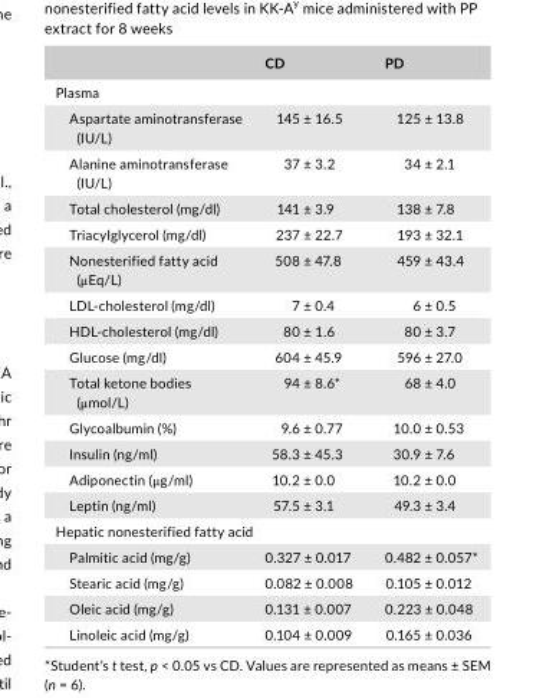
<table><thead><tr><td></td><td>CD</td><td>PD</td></tr></thead><tbody><tr><td colspan="3">Plasma</td></tr><tr><td>Aspartate aminotransferase (IU/L)</td><td>145 ± 16.5</td><td>125 ± 13.8</td></tr><tr><td>Alanine aminotransferase (IU/L)</td><td>37 ± 3.2</td><td>34 ± 2.1</td></tr><tr><td>Total cholesterol (mg/dl)</td><td>141 ± 3.9</td><td>138 ± 7.8</td></tr><tr><td>Triacylglycerol (mg/dl)</td><td>237 ± 22.7</td><td>193 ± 32.1</td></tr><tr><td>Nonesterified fatty acid (μEq/L)</td><td>508 ± 47.8</td><td>459 ± 43.4</td></tr><tr><td>LDL- cholesterol (mg/dl)</td><td>7 ± 0.4</td><td>6 ± 0.5</td></tr><tr><td>HDL- cholesterol (mg/dl)</td><td>80 ± 1.6</td><td>80 ± 3.7</td></tr><tr><td>Glucose (mg/dl)</td><td>604 ± 45.9</td><td>596 ± 27.0</td></tr><tr><td>Total ketone bodies (μmol/L)</td><td>94 ± 8.6*</td><td>68 ± 4.0</td></tr><tr><td>Glycoalbumin (%)</td><td>9.6 ± 0.77</td><td>10.0 ± 0.53</td></tr><tr><td>Insulin (ng/ml)</td><td>58.3 ± 45.3</td><td>30.9 ± 7.6</td></tr><tr><td>Adiponectin (μg/ml)</td><td>10.2 ± 0.0</td><td>10.2 ± 0.0</td></tr><tr><td>Leptin (ng/ml)</td><td>57.5 ± 3.1</td><td>49.3 ± 3.4</td></tr><tr><td colspan="3">Hepatic nonesterified fatty acid</td></tr><tr><td>Palmitic acid (mg/g)</td><td>0.327 ± 0.017</td><td>0.482 ± 0.057*</td></tr><tr><td>Stearic acid (mg/g)</td><td>0.082 ± 0.008</td><td>0.105 ± 0.012</td></tr><tr><td>Oleic acid (mg/g)</td><td>0.131 ± 0.007</td><td>0.223 ± 0.048</td></tr><tr><td>Linoleic acid (mg/g)</td><td>0.104 ± 0.009</td><td>0.165 ± 0.036</td></tr></tbody></table>